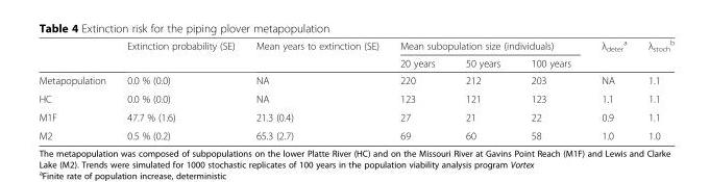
<table><thead><tr><td rowspan="2"></td><td rowspan="2">Extinction probability (SE)</td><td rowspan="2">Mean years to extinction (SE)</td><td colspan="3">Mean subopulation size (individuals)</td><td rowspan="2">λ<sub>deter</sub> <sup>a</sup></td><td rowspan="2">λstoch</td></tr><tr><td>20 years</td><td>50 years</td><td>100 years</td></tr></thead><tbody><tr><td>Metapopulation</td><td>0.0 % (0.0)</td><td>NA</td><td>220</td><td>212</td><td>203</td><td>NA</td><td>1.1</td></tr><tr><td>HC</td><td>0.0 % (0.0)</td><td>NA</td><td>123</td><td>121</td><td>123</td><td>1.1</td><td>1.1</td></tr><tr><td>M1F</td><td>47.7 % (1.6)</td><td>21.3 (0.4)</td><td>27</td><td>21</td><td>22</td><td>0.9</td><td>1.1</td></tr><tr><td>M2</td><td>0.5 % (0.2)</td><td>65.3 (2.7)</td><td>69</td><td>60</td><td>58</td><td>1.0</td><td>1.0</td></tr></tbody></table>